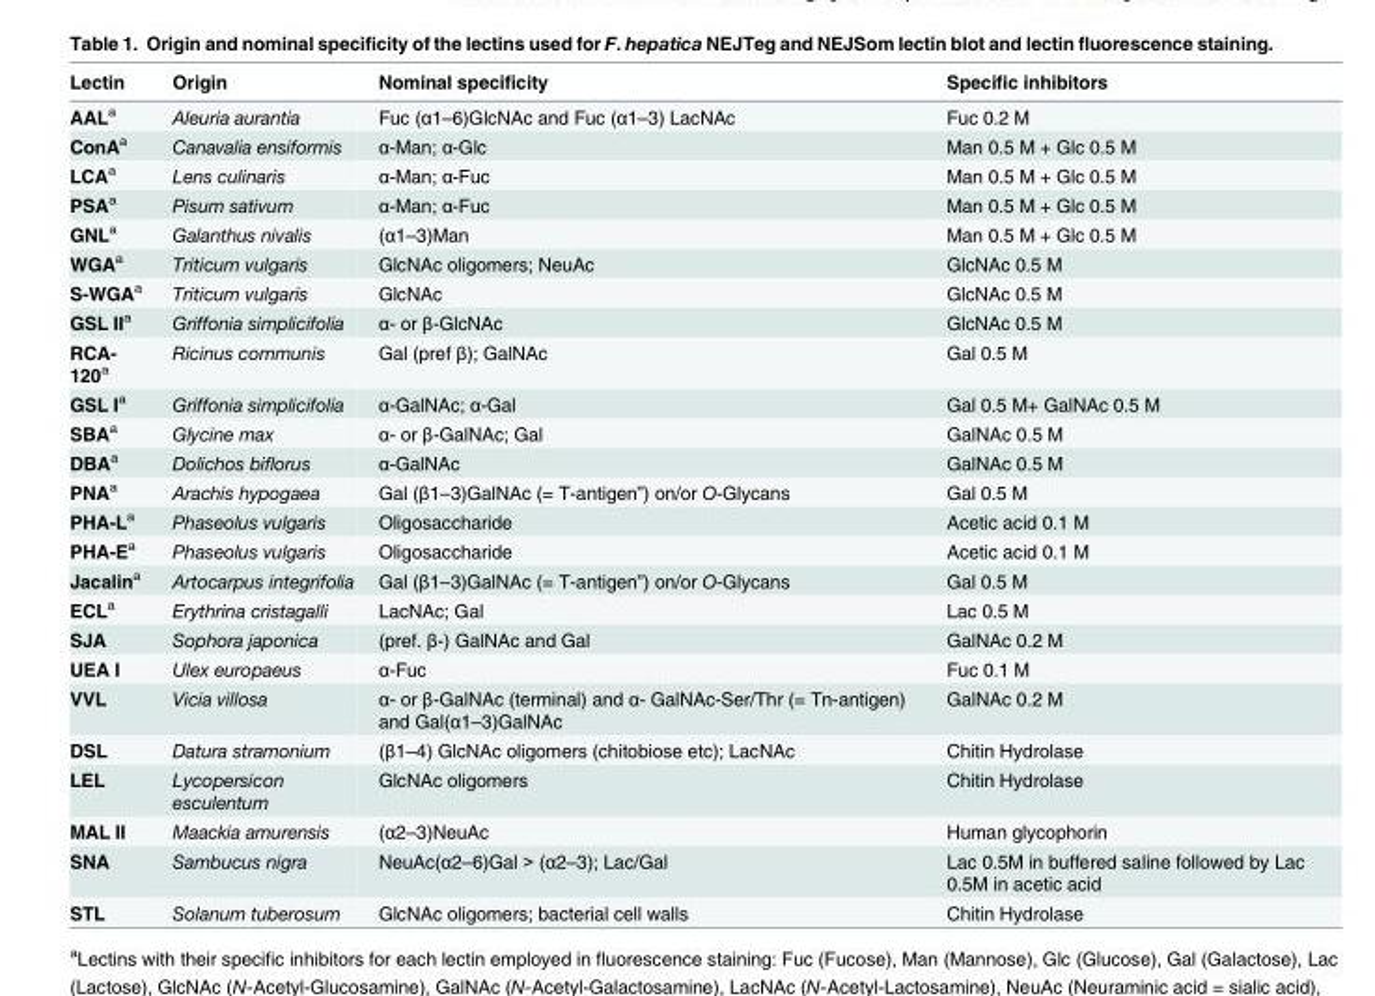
<table><thead><tr><td>Lectin</td><td>Origin</td><td>Nominal specificity</td><td>Specific inhibitors</td></tr></thead><tbody><tr><td>AAL<sup>a</sup></td><td>Aleuria aurantia</td><td>Fuc (α1–6)GlcNAc and Fuc (α1–3) LacNAc</td><td>Fuc 0.2 M</td></tr><tr><td>ConA<sup>a</sup></td><td>Canavalia ensiformis</td><td>α-Man; α-Glc</td><td>Man 0.5 M + Glc 0.5 M</td></tr><tr><td>LCA<sup>a</sup></td><td>Lens culinaris</td><td>α-Man; α-Fuc</td><td>Man 0.5 M + Glc 0.5 M</td></tr><tr><td>PSA<sup>a</sup></td><td>Pisum sativum</td><td>α-Man; α-Fuc</td><td>Man 0.5 M + Glc 0.5 M</td></tr><tr><td>GNL<sup>a</sup></td><td>Galanthus nivalis</td><td>(α1–3)Man</td><td>Man 0.5 M + Glc 0.5 M</td></tr><tr><td>WGA<sup>a</sup></td><td>Triticum vulgaris</td><td>GlcNAc oligomers; NeuAc</td><td>GlcNAc 0.5 M</td></tr><tr><td>S-WGA<sup>a</sup></td><td>Triticum vulgaris</td><td>GlcNAc</td><td>GlcNAc 0.5 M</td></tr><tr><td>GSL II<sup>a</sup></td><td>Griffonia simplicifolia</td><td>α- or β-GlcNAc</td><td>GlcNAc 0.5 M</td></tr><tr><td>RCA- 120<sup>a</sup></td><td>Ricinus communis</td><td>Gal (pref β); GalNAc</td><td>Gal 0.5 M</td></tr><tr><td>GSL I<sup>a</sup></td><td>Griffonia simplicifolia</td><td>α-GalNAc; α-Gal</td><td>Gal 0.5 M+ GalNAc 0.5 M</td></tr><tr><td>SBA<sup>a</sup></td><td>Glycine max</td><td>α- or β-GalNAc; Gal</td><td>GalNAc 0.5 M</td></tr><tr><td>DBA<sup>a</sup></td><td>Dolichos biflorus</td><td>α-GalNAc</td><td>GalNAc 0.5 M</td></tr><tr><td>PNA<sup>a</sup></td><td>Arachis hypogaea</td><td>Gal (β1–3)GalNAc (= T-antigen”) on/or O-Glycans</td><td>Gal 0.5 M</td></tr><tr><td>PHA-L<sup>a</sup></td><td>Phaseolus vulgaris</td><td>Oligosaccharide</td><td>Acetic acid 0.1 M</td></tr><tr><td>PHA-E<sup>a</sup></td><td>Phaseolus vulgaris</td><td>Oligosaccharide</td><td>Acetic acid 0.1 M</td></tr><tr><td>Jacalin<sup>a</sup></td><td>Artocarpus integrifolia</td><td>Gal (β1–3)GalNAc (= T-antigen”) on/or O-Glycans</td><td>Gal 0.5 M</td></tr><tr><td>ECL<sup>a</sup></td><td>Erythrina cristagalli</td><td>LacNAc; Gal</td><td>Lac 0.5 M</td></tr><tr><td>SJA</td><td>Sophora japonica</td><td>(pref. β-) GalNAc and Gal</td><td>GalNAc 0.2 M</td></tr><tr><td>UEA I</td><td>Ulex europaeus</td><td>α-Fuc</td><td>Fuc 0.1 M</td></tr><tr><td>VVL</td><td>Vicia villosa</td><td>α- or β-GalNAc (terminal) and α- GalNAc-Ser/Thr (= Tn-antigen) and Gal(α1–3)GalNAc</td><td>GalNAc 0.2 M</td></tr><tr><td>DSL</td><td>Datura stramonium</td><td>(β1–4) GlcNAc oligomers (chitobiose etc); LacNAc</td><td>Chitin Hydrolase</td></tr><tr><td>LEL</td><td>Lycopersicon esculentum</td><td>GlcNAc oligomers</td><td>Chitin Hydrolase</td></tr><tr><td>MAL II</td><td>Maackia amurensis</td><td>(α2–3)NeuAc</td><td>Human glycophorin</td></tr><tr><td>SNA</td><td>Sambucus nigra</td><td>NeuAc(α2–6)Gal &gt; (α2–3); Lac/Gal</td><td>Lac 0.5M in buffered saline followed by Lac 0.5M in acetic acid</td></tr><tr><td>STL</td><td>Solanum tuberosum</td><td>GlcNAc oligomers; bacterial cell walls</td><td>Chitin Hydrolase</td></tr></tbody></table>